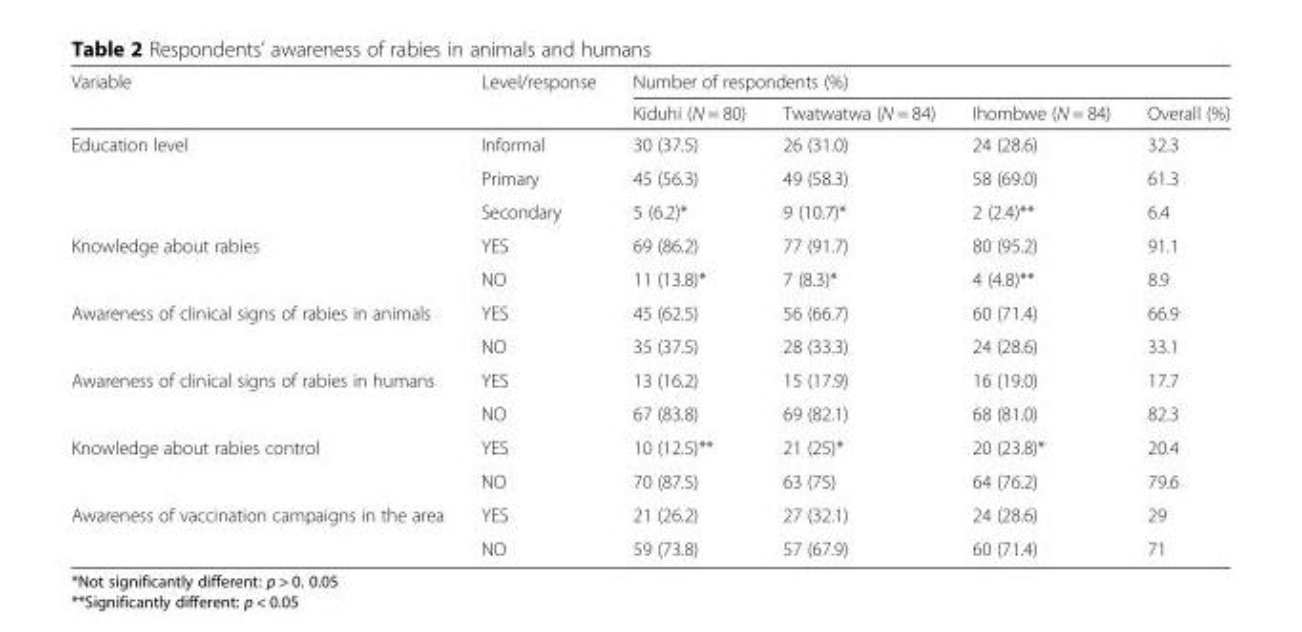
<table><thead><tr><td rowspan="2">Variable</td><td rowspan="2">Level/response</td><td colspan="4">Number of respondents (%)</td></tr><tr><td>Kiduhi (N = 80)</td><td>Twatwatwa (N = 84)</td><td>Ihombwe (N = 84)</td><td>Overall (%)</td></tr></thead><tbody><tr><td rowspan="3">Education level</td><td>Informal</td><td>30 (37.5)</td><td>26 (31.0)</td><td>24 (28.6)</td><td>32.3</td></tr><tr><td>Primary</td><td>45 (56.3)</td><td>49 (58.3)</td><td>58 (69.0)</td><td>61.3</td></tr><tr><td>Secondary</td><td>5 (6.2)*</td><td>9 (10.7)*</td><td>2 (2.4)**</td><td>6.4</td></tr><tr><td rowspan="2">Knowledge about rabies</td><td>YES</td><td>69 (86.2)</td><td>77 (91.7)</td><td>80 (95.2)</td><td>91.1</td></tr><tr><td>NO</td><td>11 (13.8)*</td><td>7 (8.3)*</td><td>4 (4.8)**</td><td>8.9</td></tr><tr><td rowspan="2">Awareness of clinical signs of rabies in animals</td><td>YES</td><td>45 (62.5)</td><td>56 (66.7)</td><td>60 (71.4)</td><td>66.9</td></tr><tr><td>NO</td><td>35 (37.5)</td><td>28 (33.3)</td><td>24 (28.6)</td><td>33.1</td></tr><tr><td rowspan="2">Awareness of clinical signs of rabies in humans</td><td>YES</td><td>13 (16.2)</td><td>15 (17.9)</td><td>16 (19.0)</td><td>17.7</td></tr><tr><td>NO</td><td>67 (83.8)</td><td>69 (82.1)</td><td>68 (81.0)</td><td>82.3</td></tr><tr><td rowspan="2">Knowledge about rabies control</td><td>YES</td><td>10 (12.5)**</td><td>21 (25)*</td><td>20 (23.8)*</td><td>20.4</td></tr><tr><td>NO</td><td>70 (87.5)</td><td>63 (75)</td><td>64 (76.2)</td><td>79.6</td></tr><tr><td rowspan="2">Awareness of vaccination campaigns in the area</td><td>YES</td><td>21 (26.2)</td><td>27 (32.1)</td><td>24 (28.6)</td><td>29</td></tr><tr><td>NO</td><td>59 (73.8)</td><td>57 (67.9)</td><td>60 (71.4)</td><td>71</td></tr></tbody></table>